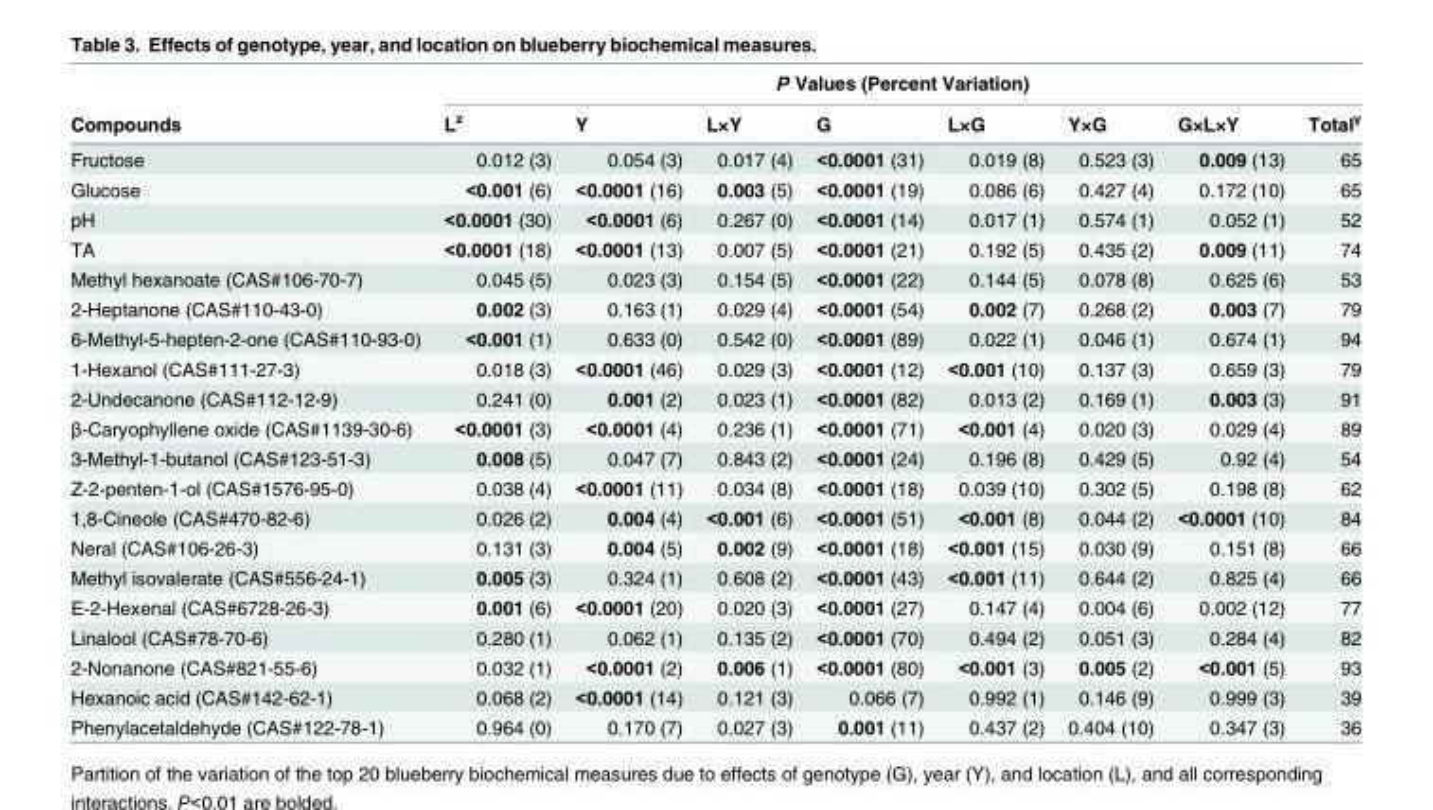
<table><thead><tr><td rowspan="2">Compounds</td><td colspan="8">P Values (Percent Variation)</td></tr><tr><td>L<sup>z</sup></td><td>Y</td><td>L×Y</td><td>G</td><td>L×G</td><td>Y×G</td><td>G×L×Y</td><td>Total<sup>y</sup></td></tr></thead><tbody><tr><td>Fructose</td><td>0.012 (3)</td><td>0.054 (3)</td><td>0.017 (4)</td><td>&lt;0.0001 (31)</td><td>0.019 (8)</td><td>0.523 (3)</td><td>0.009 (13)</td><td>65</td></tr><tr><td>Glucose</td><td>&lt;0.001 (6)</td><td>&lt;0.0001 (16)</td><td>0.003 (5)</td><td>&lt;0.0001 (19)</td><td>0.086 (6)</td><td>0.427 (4)</td><td>0.172 (10)</td><td>65</td></tr><tr><td>pH</td><td>&lt;0.0001 (30)</td><td>&lt;0.0001 (6)</td><td>0.267 (0)</td><td>&lt;0.0001 (14)</td><td>0.017 (1)</td><td>0.574 (1)</td><td>0.052 (1)</td><td>52</td></tr><tr><td>TA</td><td>&lt;0.0001 (18)</td><td>&lt;0.0001 (13)</td><td>0.007 (5)</td><td>&lt;0.0001 (21)</td><td>0.192 (5)</td><td>0.435 (2)</td><td>0.009 (11)</td><td>74</td></tr><tr><td>Methyl hexanoate (CAS#106-70-7)</td><td>0.045 (5)</td><td>0.023 (3)</td><td>0.154 (5)</td><td>&lt;0.0001 (22)</td><td>0.144 (5)</td><td>0.078 (8)</td><td>0.625 (6)</td><td>53</td></tr><tr><td>2-Heptanone (CAS#110-43-0)</td><td>0.002 (3)</td><td>0.163 (1)</td><td>0.029 (4)</td><td>&lt;0.0001 (54)</td><td>0.002 (7)</td><td>0.268 (2)</td><td>0.003 (7)</td><td>79</td></tr><tr><td>6-Methyl-5-hepten-2-one (CAS#110-93-0)</td><td>&lt;0.001 (1)</td><td>0.633 (0)</td><td>0.542 (0)</td><td>&lt;0.0001 (89)</td><td>0.022 (1)</td><td>0.046 (1)</td><td>0.674 (1)</td><td>94</td></tr><tr><td>1-Hexanol (CAS#111-27-3)</td><td>0.018 (3)</td><td>&lt;0.0001 (46)</td><td>0.029 (3)</td><td>&lt;0.0001 (12)</td><td>&lt;0.001 (10)</td><td>0.137 (3)</td><td>0.659 (3)</td><td>79</td></tr><tr><td>2-Undecanone (CAS#112-12-9)</td><td>0.241 (0)</td><td>0.001 (2)</td><td>0.023 (1)</td><td>&lt;0.0001 (82)</td><td>0.013 (2)</td><td>0.169 (1)</td><td>0.003 (3)</td><td>91</td></tr><tr><td>β-Caryophyllene oxide (CAS#1139-30-6)</td><td>&lt;0.0001 (3)</td><td>&lt;0.0001 (4)</td><td>0.236 (1)</td><td>&lt;0.0001 (71)</td><td>&lt;0.001 (4)</td><td>0.020 (3)</td><td>0.029 (4)</td><td>89</td></tr><tr><td>3-Methyl-1-butanol (CAS#123-51-3)</td><td>0.008 (5)</td><td>0.047 (7)</td><td>0.843 (2)</td><td>&lt;0.0001 (24)</td><td>0.196 (8)</td><td>0.429 (5)</td><td>0.92 (4)</td><td>54</td></tr><tr><td>Z-2-penten-1-ol (CAS#1576-95-0)</td><td>0.038 (4)</td><td>&lt;0.0001 (11)</td><td>0.034 (8)</td><td>&lt;0.0001 (18)</td><td>0.039 (10)</td><td>0.302 (5)</td><td>0.198 (8)</td><td>62</td></tr><tr><td>1,8-Cineole (CAS#470-82-6)</td><td>0.026 (2)</td><td>0.004 (4)</td><td>&lt;0.001 (6)</td><td>&lt;0.0001 (51)</td><td>&lt;0.001 (8)</td><td>0.044 (2)</td><td>&lt;0.0001 (10)</td><td>84</td></tr><tr><td>Neral (CAS#106-26-3)</td><td>0.131 (3)</td><td>0.004 (5)</td><td>0.002 (9)</td><td>&lt;0.0001 (18)</td><td>&lt;0.001 (15)</td><td>0.030 (9)</td><td>0.151 (8)</td><td>66</td></tr><tr><td>Methyl isovalerate (CAS#556-24-1)</td><td>0.005 (3)</td><td>0.324 (1)</td><td>0.608 (2)</td><td>&lt;0.0001 (43)</td><td>&lt;0.001 (11)</td><td>0.644 (2)</td><td>0.825 (4)</td><td>66</td></tr><tr><td>E-2-Hexenal (CAS#6728-26-3)</td><td>0.001 (6)</td><td>&lt;0.0001 (20)</td><td>0.020 (3)</td><td>&lt;0.0001 (27)</td><td>0.147 (4)</td><td>0.004 (6)</td><td>0.002 (12)</td><td>77</td></tr><tr><td>Linalool (CAS#78-70-6)</td><td>0.280 (1)</td><td>0.062 (1)</td><td>0.135 (2)</td><td>&lt;0.0001 (70)</td><td>0.494 (2)</td><td>0.051 (3)</td><td>0.284 (4)</td><td>82</td></tr><tr><td>2-Nonanone (CAS#821-55-6)</td><td>0.032 (1)</td><td>&lt;0.0001 (2)</td><td>0.006 (1)</td><td>&lt;0.0001 (80)</td><td>&lt;0.001 (3)</td><td>0.005 (2)</td><td>&lt;0.001 (5)</td><td>93</td></tr><tr><td>Hexanoic acid (CAS#142-62-1)</td><td>0.068 (2)</td><td>&lt;0.0001 (14)</td><td>0.121 (3)</td><td>0.066 (7)</td><td>0.992 (1)</td><td>0.146 (9)</td><td>0.999 (3)</td><td>39</td></tr><tr><td>Phenylacetaldehyde (CAS#122-78-1)</td><td>0.964 (0)</td><td>0.170 (7)</td><td>0.027 (3)</td><td>0.001 (11)</td><td>0.437 (2)</td><td>0.404 (10)</td><td>0.347 (3)</td><td>36</td></tr></tbody></table>